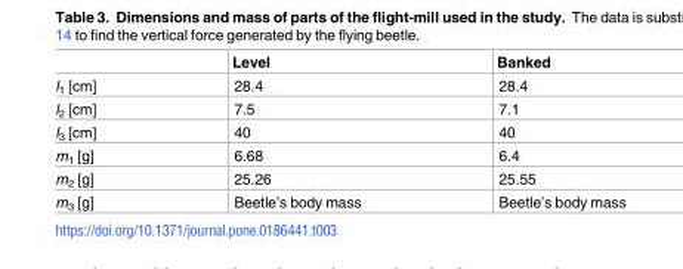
<table><thead><tr><td></td><td>Level</td><td>Banked</td></tr></thead><tbody><tr><td>l<sub>1</sub> [cm]</td><td>28.4</td><td>28.4</td></tr><tr><td>l<sub>2</sub> [cm]</td><td>7.5</td><td>7.1</td></tr><tr><td>l<sub>3</sub> [cm]</td><td>40</td><td>40</td></tr><tr><td>m<sub>1</sub> [g]</td><td>6.68</td><td>6.4</td></tr><tr><td>m<sub>2</sub> [g]</td><td>25.26</td><td>25.55</td></tr><tr><td>m<sub>3</sub> [g]</td><td>Beetle’s body mass</td><td>Beetle’s body mass</td></tr></tbody></table>